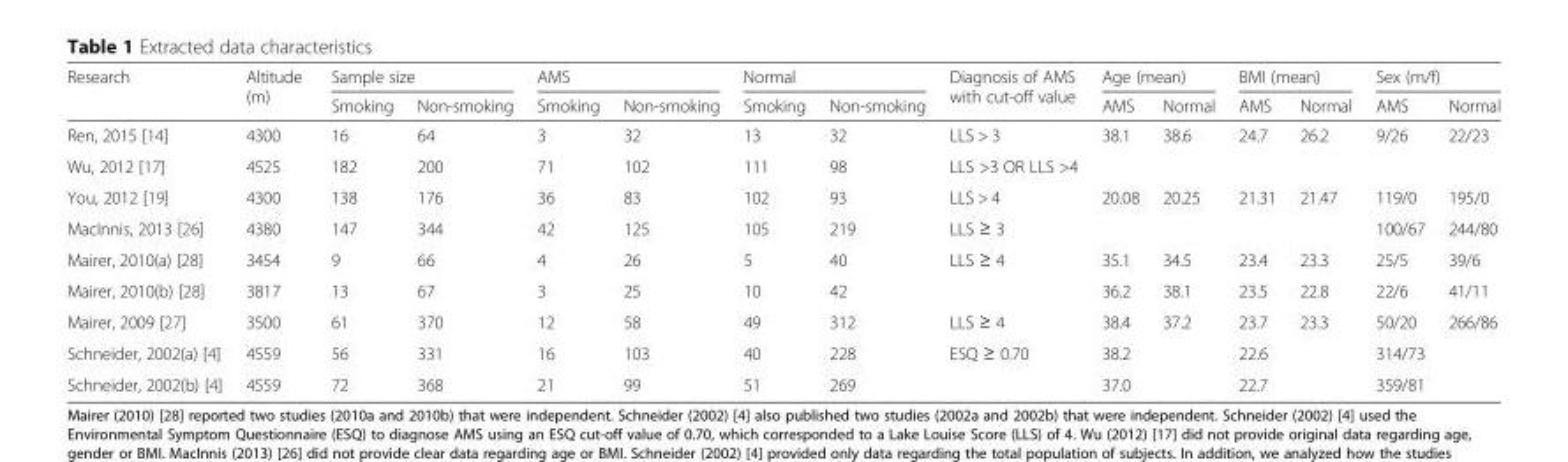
<table><thead><tr><td rowspan="2">Research</td><td rowspan="2">Altitude (m)</td><td colspan="2">Sample size</td><td colspan="2">AMS</td><td colspan="2">Normal</td><td rowspan="2">Diagnosis of AMS with cut-off value</td><td colspan="2">Age (mean)</td><td colspan="2">BMI (mean)</td><td colspan="2">Sex (m/f)</td></tr><tr><td>Smoking</td><td>Non-smoking</td><td>Smoking</td><td>Non-smoking</td><td>Smoking</td><td>Non-smoking</td><td>AMS</td><td>Normal</td><td>AMS</td><td>Normal</td><td>AMS</td><td>Normal</td></tr></thead><tbody><tr><td>Ren, 2015 [14]</td><td>4300</td><td>16</td><td>64</td><td>3</td><td>32</td><td>13</td><td>32</td><td>LLS &gt; 3</td><td>38.1</td><td>38.6</td><td>24.7</td><td>26.2</td><td>9/26</td><td>22/23</td></tr><tr><td>Wu, 2012 [17]</td><td>4525</td><td>182</td><td>200</td><td>71</td><td>102</td><td>111</td><td>98</td><td>LLS &gt;3 OR LLS &gt;4</td><td></td><td></td><td></td><td></td><td></td><td></td></tr><tr><td>You, 2012 [19]</td><td>4300</td><td>138</td><td>176</td><td>36</td><td>83</td><td>102</td><td>93</td><td>LLS &gt; 4</td><td>20.08</td><td>20.25</td><td>21.31</td><td>21.47</td><td>119/0</td><td>195/0</td></tr><tr><td>MacInnis, 2013 [26]</td><td>4380</td><td>147</td><td>344</td><td>42</td><td>125</td><td>105</td><td>219</td><td>LLS ≥ 3</td><td></td><td></td><td></td><td></td><td>100/67</td><td>244/80</td></tr><tr><td>Mairer, 2010(a) [28]</td><td>3454</td><td>9</td><td>66</td><td>4</td><td>26</td><td>5</td><td>40</td><td rowspan="2">LLS ≥ 4</td><td>35.1</td><td>34.5</td><td>23.4</td><td>23.3</td><td>25/5</td><td>39/6</td></tr><tr><td>Mairer, 2010(b) [28]</td><td>3817</td><td>13</td><td>67</td><td>3</td><td>25</td><td>10</td><td>42</td><td>36.2</td><td>38.1</td><td>23.5</td><td>22.8</td><td>22/6</td><td>41/11</td></tr><tr><td>Mairer, 2009 [27]</td><td>3500</td><td>61</td><td>370</td><td>12</td><td>58</td><td>49</td><td>312</td><td>LLS ≥ 4</td><td>38.4</td><td>37.2</td><td>23.7</td><td>23.3</td><td>50/20</td><td>266/86</td></tr><tr><td>Schneider, 2002(a) [4]</td><td>4559</td><td>56</td><td>331</td><td>16</td><td>103</td><td>40</td><td>228</td><td rowspan="2">ESQ ≥ 0.70</td><td colspan="2">38.2</td><td colspan="2">22.6</td><td colspan="2">314/73</td></tr><tr><td>Schneider, 2002(b) [4]</td><td>4559</td><td>72</td><td>368</td><td>21</td><td>99</td><td>51</td><td>269</td><td colspan="2">37.0</td><td colspan="2">22.7</td><td colspan="2">359/81</td></tr></tbody></table>